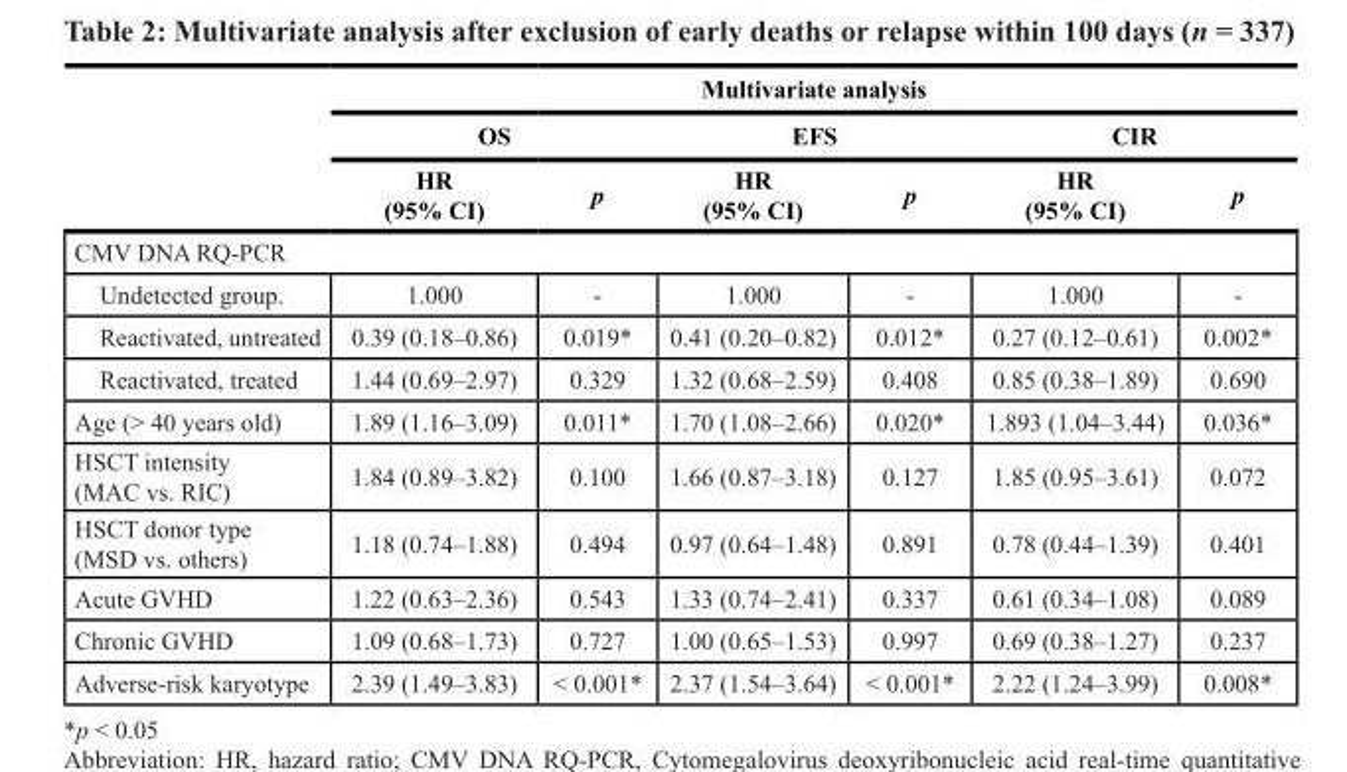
<table><thead><tr><td rowspan="3"></td><td colspan="6">Multivariate analysis</td></tr><tr><td colspan="2">OS</td><td colspan="2">EFS</td><td colspan="2">CIR</td></tr><tr><td>HR (95% CI)</td><td>p</td><td>HR (95% CI)</td><td>p</td><td>HR (95% CI)</td><td>p</td></tr></thead><tbody><tr><td colspan="7">CMV DNA RQ-PCR</td></tr><tr><td>Undetected group.</td><td>1.000</td><td>-</td><td>1.000</td><td>-</td><td>1.000</td><td>-</td></tr><tr><td>Reactivated, untreated</td><td>0.39 (0.18–0.86)</td><td>0.019*</td><td>0.41 (0.20–0.82)</td><td>0.012*</td><td>0.27 (0.12–0.61)</td><td>0.002*</td></tr><tr><td>Reactivated, treated</td><td>1.44 (0.69–2.97)</td><td>0.329</td><td>1.32 (0.68–2.59)</td><td>0.408</td><td>0.85 (0.38–1.89)</td><td>0.690</td></tr><tr><td>Age (&gt; 40 years old)</td><td>1.89 (1.16–3.09)</td><td>0.011*</td><td>1.70 (1.08–2.66)</td><td>0.020*</td><td>1.893 (1.04–3.44)</td><td>0.036*</td></tr><tr><td>HSCT intensity (MAC vs. RIC)</td><td>1.84 (0.89–3.82)</td><td>0.100</td><td>1.66 (0.87–3.18)</td><td>0.127</td><td>1.85 (0.95–3.61)</td><td>0.072</td></tr><tr><td>HSCT donor type (MSD vs. others)</td><td>1.18 (0.74–1.88)</td><td>0.494</td><td>0.97 (0.64–1.48)</td><td>0.891</td><td>0.78 (0.44–1.39)</td><td>0.401</td></tr><tr><td>Acute GVHD</td><td>1.22 (0.63–2.36)</td><td>0.543</td><td>1.33 (0.74–2.41)</td><td>0.337</td><td>0.61 (0.34–1.08)</td><td>0.089</td></tr><tr><td>Chronic GVHD</td><td>1.09 (0.68–1.73)</td><td>0.727</td><td>1.00 (0.65–1.53)</td><td>0.997</td><td>0.69 (0.38–1.27)</td><td>0.237</td></tr><tr><td>Adverse-risk karyotype</td><td>2.39 (1.49–3.83)</td><td>&lt; 0.001*</td><td>2.37 (1.54–3.64)</td><td>&lt; 0.001*</td><td>2.22 (1.24–3.99)</td><td>0.008*</td></tr></tbody></table>